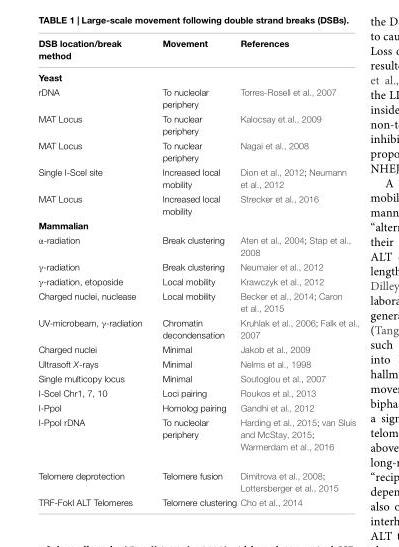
<table><thead><tr><td>DSB location/break method</td><td>Movement</td><td>References</td></tr></thead><tbody><tr><td colspan="3">Yeast</td></tr><tr><td>rDNA</td><td>To nucleolar periphery</td><td>Torres-Rosell et al., 2007</td></tr><tr><td>MAT Locus</td><td>To nuclear periphery</td><td>Kalocsay et al., 2009</td></tr><tr><td>MAT Locus</td><td>To nuclear periphery</td><td>Nagai et al., 2008</td></tr><tr><td>Single I-SceI site</td><td>Increased local mobility</td><td>Dion et al., 2012; Neumann et al., 2012</td></tr><tr><td>MAT Locus</td><td>Increased local mobility</td><td>Strecker et al., 2016</td></tr><tr><td colspan="3">Mammalian</td></tr><tr><td>α-radiation</td><td>Break clustering</td><td>Aten et al., 2004; Stap et al., 2008</td></tr><tr><td>γ-radiation</td><td>Break clustering</td><td>Neumaier et al., 2012</td></tr><tr><td>γ-radiation, etoposide</td><td>Local mobility</td><td>Krawczyk et al., 2012</td></tr><tr><td>Charged nuclei, nuclease</td><td>Local mobility</td><td>Becker et al., 2014; Caron et al., 2015</td></tr><tr><td>UV-microbeam, γ-radiation</td><td>Chromatin decondensation</td><td>Kruhlak et al., 2006; Falk et al., 2007</td></tr><tr><td>Charged nuclei</td><td>Minimal</td><td>Jakob et al., 2009</td></tr><tr><td>Ultrasoft X-rays</td><td>Minimal</td><td>Nelms et al., 1998</td></tr><tr><td>Single multicopy locus</td><td>Minimal</td><td>Soutoglou et al., 2007</td></tr><tr><td>I-SceI Chr1, 7, 10</td><td>Loci pairing</td><td>Roukos et al., 2013</td></tr><tr><td>I-PpoI</td><td>Homolog pairing</td><td>Gandhi et al., 2012</td></tr><tr><td>I-PpoI rDNA</td><td>To nucleolar periphery</td><td>Harding et al., 2015; van Sluis and McStay, 2015; Warmerdam et al., 2016</td></tr><tr><td>Telomere deprotection</td><td>Telomere fusion</td><td>Dimitrova et al., 2008; Lottersberger et al., 2015</td></tr><tr><td>TRF-FokI ALT Telomeres</td><td>Telomere clustering</td><td>Cho et al., 2014</td></tr></tbody></table>